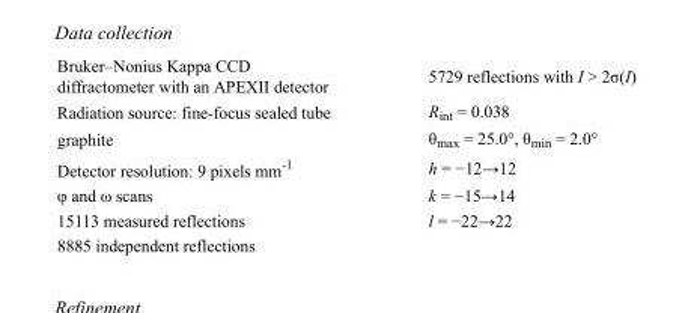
<table><tbody><tr><td>Bruker–Nonius Kappa CCD diffractometer with an APEXII detector</td><td>5729 reflections with I &gt; 2σ(I)</td></tr><tr><td>Radiation source: fine-focus sealed tube</td><td>R<sub>int</sub> = 0.038</td></tr><tr><td>graphite</td><td>θ<sub>max</sub> = 25.0°, θ<sub>min</sub> = 2.0°</td></tr><tr><td>Detector resolution: 9 pixels mm<sup>-1</sup></td><td>h = −12→12</td></tr><tr><td>φ and ω scans</td><td>k = −15→14</td></tr><tr><td>15113 measured reflections</td><td>l = −22→22</td></tr><tr><td>8885 independent reflections</td><td></td></tr></tbody></table>